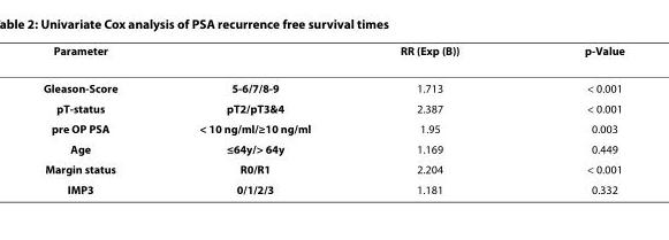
<table><thead><tr><td>Parameter</td><td></td><td>RR (Exp (B))</td><td>p-Value</td></tr></thead><tbody><tr><td>Gleason-Score</td><td>5-6/7/8-9</td><td>1.713</td><td>&lt; 0.001</td></tr><tr><td>pT-status</td><td>pT2/pT3&amp;4</td><td>2.387</td><td>&lt; 0.001</td></tr><tr><td>pre OP PSA</td><td>&lt; 10 ng/ml/≥10 ng/ml</td><td>1.95</td><td>0.003</td></tr><tr><td>Age</td><td>≤64y/&gt; 64y</td><td>1.169</td><td>0.449</td></tr><tr><td>Margin status</td><td>R0/R1</td><td>2.204</td><td>&lt; 0.001</td></tr><tr><td>IMP3</td><td>0/1/2/3</td><td>1.181</td><td>0.332</td></tr></tbody></table>